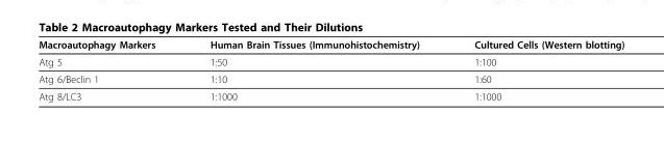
<table><thead><tr><td>Macroautophagy Markers</td><td>Human Brain Tissues (Immunohistochemistry)</td><td>Cultured Cells (Western blotting)</td></tr></thead><tbody><tr><td>Atg 5</td><td>1:50</td><td>1:100</td></tr><tr><td>Atg 6/Beclin 1</td><td>1:10</td><td>1:60</td></tr><tr><td>Atg 8/LC3</td><td>1:1000</td><td>1:1000</td></tr></tbody></table>